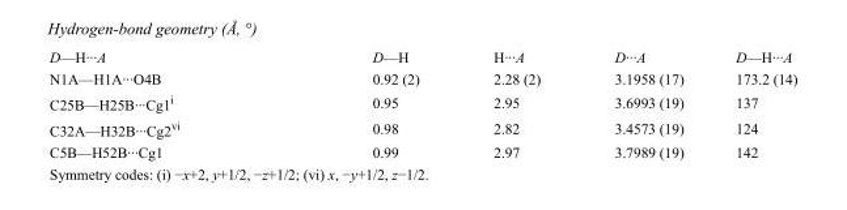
<table><tbody><tr><td>D—H···A</td><td>D—H</td><td>H···A</td><td>D···A</td><td>D—H···A</td></tr><tr><td>N1A—H1A···O4B</td><td>0.92 (2)</td><td>2.28 (2)</td><td>3.1958 (17)</td><td>173.2 (14)</td></tr><tr><td>C25B—H25B···Cg1<sup>i</sup></td><td>0.95</td><td>2.95</td><td>3.6993 (19)</td><td>137</td></tr><tr><td>C32A—H32B···Cg2<sup>vi</sup></td><td>0.98</td><td>2.82</td><td>3.4573 (19)</td><td>124</td></tr><tr><td>C5B—H52B···Cg1</td><td>0.99</td><td>2.97</td><td>3.7989 (19)</td><td>142</td></tr></tbody></table>